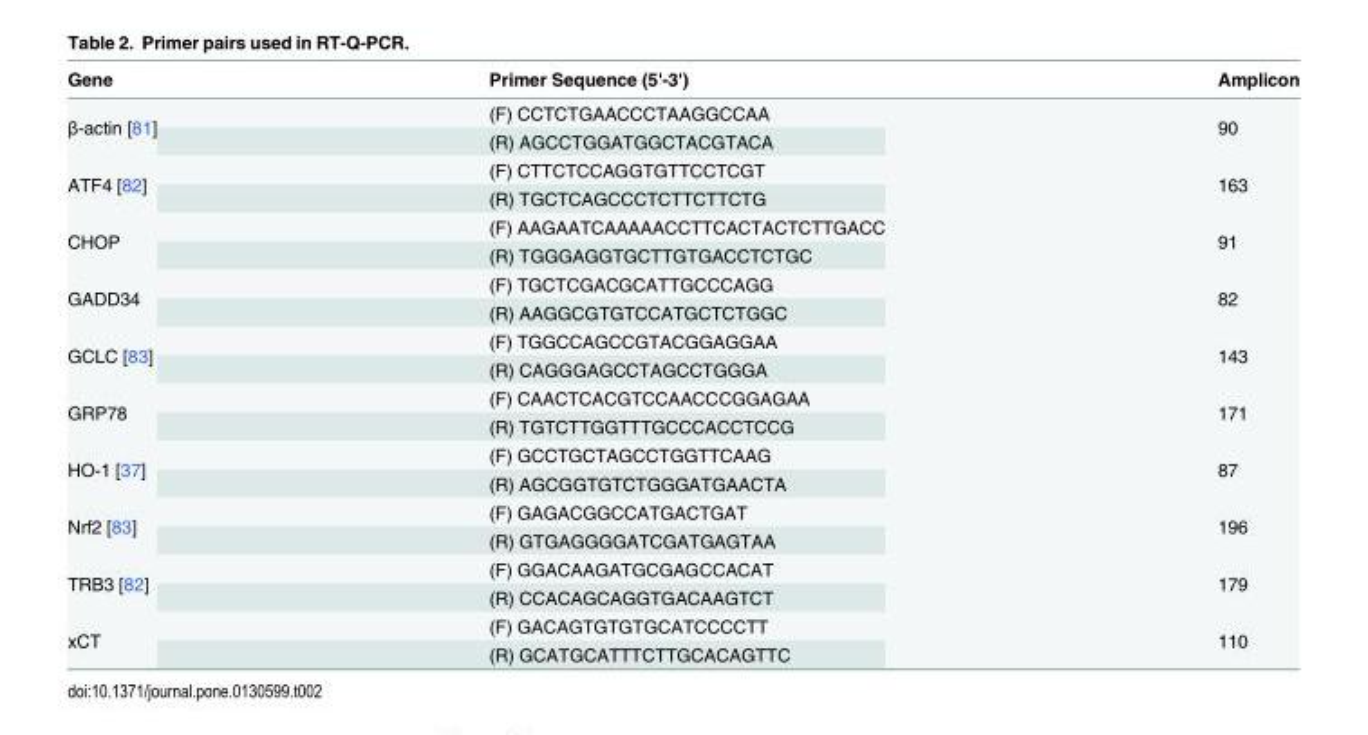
<table><thead><tr><td>Gene</td><td>Primer Sequence (5&#x27;-3&#x27;)</td><td>Amplicon</td></tr></thead><tbody><tr><td rowspan="2">β-actin [81]</td><td>(F) CCTCTGAACCCTAAGGCCAA</td><td rowspan="2">90</td></tr><tr><td>(R) AGCCTGGATGGCTACGTACA</td></tr><tr><td rowspan="2">ATF4 [82]</td><td>(F) CTTCTCCAGGTGTTCCTCGT</td><td rowspan="2">163</td></tr><tr><td>(R) TGCTCAGCCCTCTTCTTCTG</td></tr><tr><td rowspan="2">CHOP</td><td>(F) AAGAATCAAAAACCTTCACTACTCTTGACC</td><td rowspan="2">91</td></tr><tr><td>(R) TGGGAGGTGCTTGTGACCTCTGC</td></tr><tr><td rowspan="2">GADD34</td><td>(F) TGCTCGACGCATTGCCCAGG</td><td rowspan="2">82</td></tr><tr><td>(R) AAGGCGTGTCCATGCTCTGGC</td></tr><tr><td rowspan="2">GCLC [83]</td><td>(F) TGGCCAGCCGTACGGAGGAA</td><td rowspan="2">143</td></tr><tr><td>(R) CAGGGAGCCTAGCCTGGGA</td></tr><tr><td rowspan="2">GRP78</td><td>(F) CAACTCACGTCCAACCCGGAGAA</td><td rowspan="2">171</td></tr><tr><td>(R) TGTCTTGGTTTGCCCACCTCCG</td></tr><tr><td rowspan="2">HO-1 [37]</td><td>(F) GCCTGCTAGCCTGGTTCAAG</td><td rowspan="2">87</td></tr><tr><td>(R) AGCGGTGTCTGGGATGAACTA</td></tr><tr><td rowspan="2">Nrf2 [83]</td><td>(F) GAGACGGCCATGACTGAT</td><td rowspan="2">196</td></tr><tr><td>(R) GTGAGGGGATCGATGAGTAA</td></tr><tr><td rowspan="2">TRB3 [82]</td><td>(F) GGACAAGATGCGAGCCACAT</td><td rowspan="2">179</td></tr><tr><td>(R) CCACAGCAGGTGACAAGTCT</td></tr><tr><td rowspan="2">xCT</td><td>(F) GACAGTGTGTGCATCCCCTT</td><td rowspan="2">110</td></tr><tr><td>(R) GCATGCATTTCTTGCACAGTTC</td></tr></tbody></table>